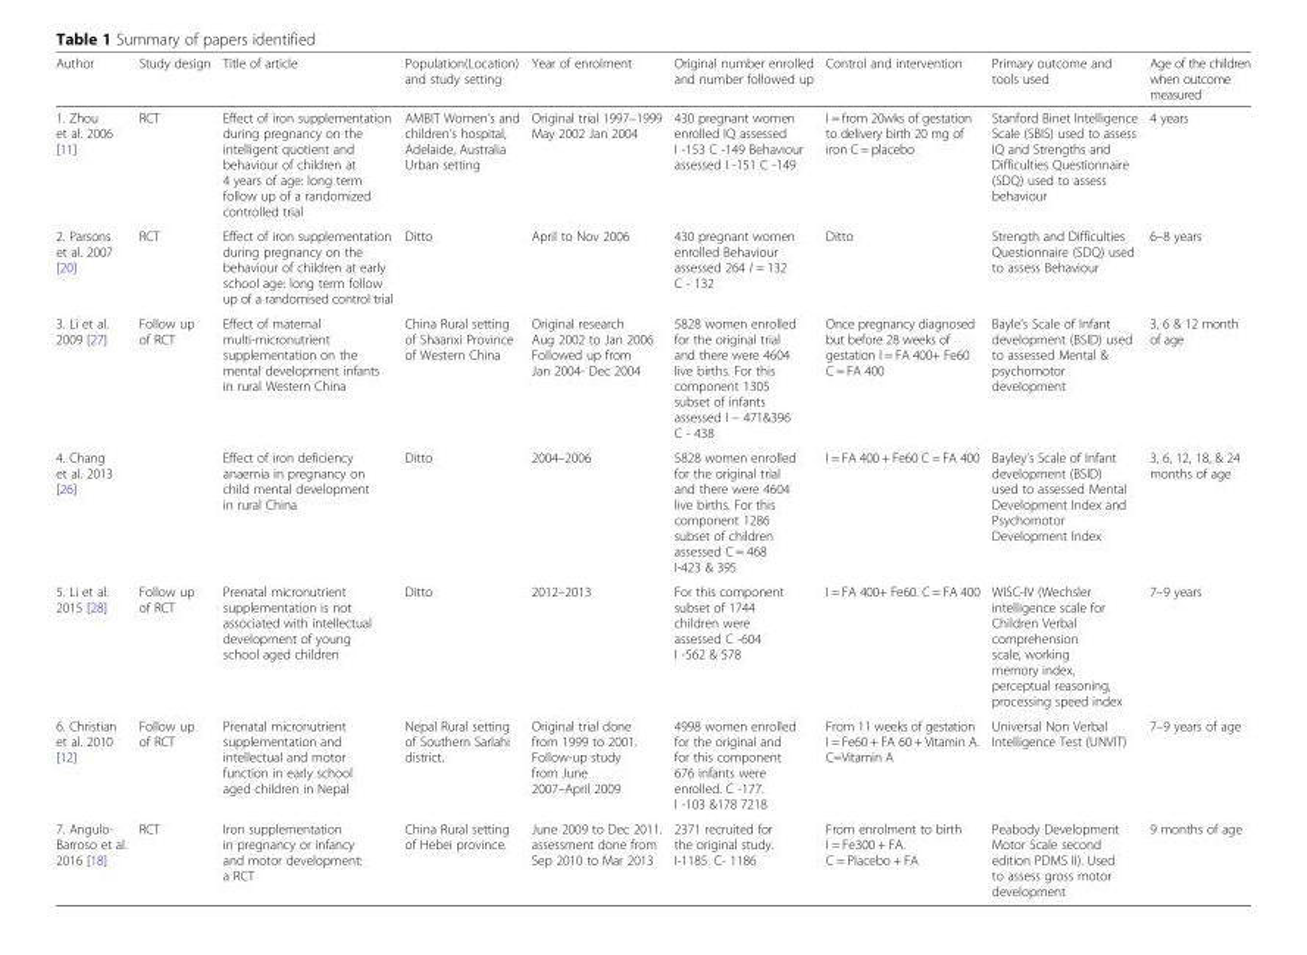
<table><thead><tr><td>Author</td><td>Study design</td><td>Title of article</td><td>Population(Location) and study setting</td><td>Year of enrolment</td><td>Original number enrolled and number followed up</td><td>Control and intervention</td><td>Primary outcome and tools used</td><td>Age of the children when outcome measured</td></tr></thead><tbody><tr><td>1. Zhou et al. 2006 [11]</td><td>RCT</td><td>Effect of iron supplementation during pregnancy on the intelligent quotient and behaviour of children at 4 years of age: long term follow up of a randomized controlled trial</td><td>AMBIT Women’s and children’s hospital, Adelaide, Australia Urban setting</td><td>Original trial 1997–1999 May 2002 Jan 2004</td><td>430 pregnant women enrolled IQ assessed I -153 C -149 Behaviour assessed I -151 C -149</td><td>I = from 20wks of gestation to delivery birth 20 mg of iron C = placebo</td><td>Stanford Binet Intelligence Scale (SBIS) used to assess IQ and Strengths and Difficulties Questionnaire (SDQ) used to assess behaviour</td><td>4 years</td></tr><tr><td>2. Parsons et al. 2007 [20]</td><td>RCT</td><td>Effect of iron supplementation during pregnancy on the behaviour of children at early school age: long term follow up of a randomised control trial</td><td>Ditto</td><td>April to Nov 2006</td><td>430 pregnant women enrolled Behaviour assessed 264 I = 132 C - 132</td><td>Ditto</td><td>Strength and Difficulties Questionnaire (SDQ) used to assess Behaviour</td><td>6–8 years</td></tr><tr><td>3. Li et al. 2009 [27]</td><td>Follow up of RCT</td><td>Effect of maternal multi-micronutrient supplementation on the mental development infants in rural Western China</td><td>China Rural setting of Shaanxi Province of Western China</td><td>Original research Aug 2002 to Jan 2006 Followed up from Jan 2004- Dec 2004</td><td>5828 women enrolled for the original trial and there were 4604 live births. For this component 1305 subset of infants assessed I – 471&amp;396 C - 438</td><td>Once pregnancy diagnosed but before 28 weeks of gestation I = FA 400+ Fe60 C = FA 400</td><td>Bayle’s Scale of Infant development (BSID) used to assessed Mental &amp; psychomotor development</td><td>3, 6 &amp; 12 month of age</td></tr><tr><td>4. Chang et al. 2013 [26]</td><td></td><td>Effect of iron deficiency anaemia in pregnancy on child mental development in rural China</td><td>Ditto</td><td>2004–2006</td><td>5828 women enrolled for the original trial and there were 4604 live births. For this component 1286 subset of children assessed C = 468 I-423 &amp; 395</td><td>I = FA 400 + Fe60 C = FA 400</td><td>Bayley’s Scale of Infant development (BSID) used to assessed Mental Development Index and Psychomotor Development Index</td><td>3, 6, 12, 18, &amp; 24 months of age</td></tr><tr><td>5. Li et al. 2015 [28]</td><td>Follow up of RCT</td><td>Prenatal micronutrient supplementation is not associated with intellectual development of young school aged children</td><td>Ditto</td><td>2012–2013</td><td>For this component subset of 1744 children were assessed C -604 I -562 &amp; 578</td><td>I = FA 400+ Fe60. C = FA 400</td><td>WISC-IV (Wechsler intelligence scale for Children Verbal comprehension scale, working memory index, perceptual reasoning, processing speed index</td><td>7–9 years</td></tr><tr><td>6. Christian et al. 2010 [12]</td><td>Follow up of RCT</td><td>Prenatal micronutrient supplementation and intellectual and motor function in early school aged children in Nepal</td><td>Nepal Rural setting of Southern Sarlahi district.</td><td>Original trial done from 1999 to 2001. Follow-up study from June 2007–April 2009</td><td>4998 women enrolled for the original and for this component 676 infants were enrolled. C -177. I -103 &amp;178 7218</td><td>From 11 weeks of gestation I = Fe60 + FA 60 + Vitamin A. C=Vitamin A</td><td>Universal Non Verbal Intelligence Test (UNVIT)</td><td>7–9 years of age</td></tr><tr><td>7. Angulo- Barroso et al. 2016 [18]</td><td>RCT</td><td>Iron supplementation in pregnancy or infancy and motor development: a RCT</td><td>China Rural setting of Hebei province.</td><td>June 2009 to Dec 2011. assessment done from Sep 2010 to Mar 2013</td><td>2371 recruited for the original study. I-1185. C- 1186</td><td>From enrolment to birth I = Fe300 + FA. C = Placebo + FA</td><td>Peabody Development Motor Scale second edition PDMS II). Used to assess gross motor development</td><td>9 months of age</td></tr></tbody></table>